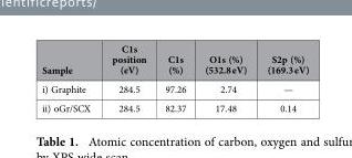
<table><thead><tr><td>Sample</td><td>C1s position (eV)</td><td>C1s (%)</td><td>O1s (%) (532.8 eV)</td><td>S2p (%) (169.3 eV)</td></tr></thead><tbody><tr><td>i) Graphite</td><td>284.5</td><td>97.26</td><td>2.74</td><td>—</td></tr><tr><td>ii) oGr/SCX</td><td>284.5</td><td>82.37</td><td>17.48</td><td>0.14</td></tr></tbody></table>